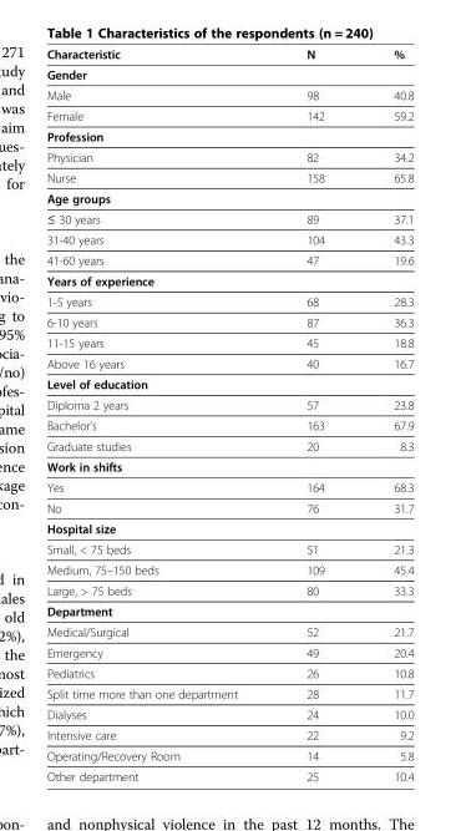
<table><thead><tr><td>Characteristic</td><td>N</td><td>%</td></tr></thead><tbody><tr><td colspan="3">Gender</td></tr><tr><td>Male</td><td>98</td><td>40.8</td></tr><tr><td>Female</td><td>142</td><td>59.2</td></tr><tr><td colspan="3">Profession</td></tr><tr><td>Physician</td><td>82</td><td>34.2</td></tr><tr><td>Nurse</td><td>158</td><td>65.8</td></tr><tr><td colspan="3">Age groups</td></tr><tr><td>≤ 30 years</td><td>89</td><td>37.1</td></tr><tr><td>31-40 years</td><td>104</td><td>43.3</td></tr><tr><td>41-60 years</td><td>47</td><td>19.6</td></tr><tr><td colspan="3">Years of experience</td></tr><tr><td>1-5 years</td><td>68</td><td>28.3</td></tr><tr><td>6-10 years</td><td>87</td><td>36.3</td></tr><tr><td>11-15 years</td><td>45</td><td>18.8</td></tr><tr><td>Above 16 years</td><td>40</td><td>16.7</td></tr><tr><td colspan="3">Level of education</td></tr><tr><td>Diploma 2 years</td><td>57</td><td>23.8</td></tr><tr><td>Bachelor’s</td><td>163</td><td>67.9</td></tr><tr><td>Graduate studies</td><td>20</td><td>8.3</td></tr><tr><td colspan="3">Work in shifts</td></tr><tr><td>Yes</td><td>164</td><td>68.3</td></tr><tr><td>No</td><td>76</td><td>31.7</td></tr><tr><td colspan="3">Hospital size</td></tr><tr><td>Small, &lt; 75 beds</td><td>51</td><td>21.3</td></tr><tr><td>Medium, 75–150 beds</td><td>109</td><td>45.4</td></tr><tr><td>Large, &gt; 75 beds</td><td>80</td><td>33.3</td></tr><tr><td colspan="3">Department</td></tr><tr><td>Medical/Surgical</td><td>52</td><td>21.7</td></tr><tr><td>Emergency</td><td>49</td><td>20.4</td></tr><tr><td>Pediatrics</td><td>26</td><td>10.8</td></tr><tr><td>Split time more than one department</td><td>28</td><td>11.7</td></tr><tr><td>Dialyses</td><td>24</td><td>10.0</td></tr><tr><td>Intensive care</td><td>22</td><td>9.2</td></tr><tr><td>Operating/Recovery Room</td><td>14</td><td>5.8</td></tr><tr><td>Other department</td><td>25</td><td>10.4</td></tr></tbody></table>